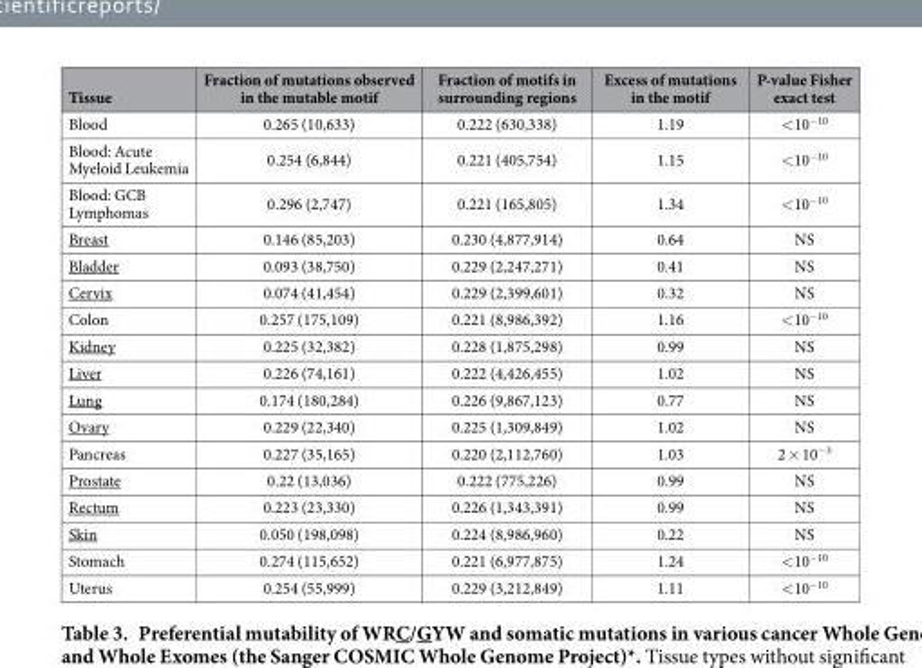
<table><thead><tr><td>Tissue</td><td>Fraction of mutations observed in the mutable motif</td><td>Fraction of motifs in surrounding regions</td><td>Excess of mutations in the motif</td><td>P-value Fisher exact test</td></tr></thead><tbody><tr><td>Blood</td><td>0.265 (10,633)</td><td>0.222 (630,338)</td><td>1.19</td><td>&lt; 10<sup>−10</sup></td></tr><tr><td>Blood: Acute Myeloid Leukemia</td><td>0.254 (6,844)</td><td>0.221 (405,754)</td><td>1.15</td><td>&lt; 10<sup>−10</sup></td></tr><tr><td>Blood: GCB Lymphomas</td><td>0.296 (2,747)</td><td>0.221 (165,805)</td><td>1.34</td><td>&lt; 10<sup>−10</sup></td></tr><tr><td>Breast</td><td>0.146 (85,203)</td><td>0.230 (4,877,914)</td><td>0.64</td><td>NS</td></tr><tr><td>Bladder</td><td>0.093 (38,750)</td><td>0.229 (2,247,271)</td><td>0.41</td><td>NS</td></tr><tr><td>Cervix</td><td>0.074 (41,454)</td><td>0.229 (2,399,601)</td><td>0.32</td><td>NS</td></tr><tr><td>Colon</td><td>0.257 (175,109)</td><td>0.221 (8,986,392)</td><td>1.16</td><td>&lt; 10<sup>−10</sup></td></tr><tr><td>Kidney</td><td>0.225 (32,382)</td><td>0.228 (1,875,298)</td><td>0.99</td><td>NS</td></tr><tr><td>Liver</td><td>0.226 (74,161)</td><td>0.222 (4,426,455)</td><td>1.02</td><td>NS</td></tr><tr><td>Lung</td><td>0.174 (180,284)</td><td>0.226 (9,867,123)</td><td>0.77</td><td>NS</td></tr><tr><td>Ovary</td><td>0.229 (22,340)</td><td>0.225 (1,309,849)</td><td>1.02</td><td>NS</td></tr><tr><td>Pancreas</td><td>0.227 (35,165)</td><td>0.220 (2,112,760)</td><td>1.03</td><td>2 × 10<sup>−3</sup></td></tr><tr><td>Prostate</td><td>0.22 (13,036)</td><td>0.222 (775,226)</td><td>0.99</td><td>NS</td></tr><tr><td>Rectum</td><td>0.223 (23,330)</td><td>0.226 (1,343,391)</td><td>0.99</td><td>NS</td></tr><tr><td>Skin</td><td>0.050 (198,098)</td><td>0.224 (8,986,960)</td><td>0.22</td><td>NS</td></tr><tr><td>Stomach</td><td>0.274 (115,652)</td><td>0.221 (6,977,875)</td><td>1.24</td><td>&lt; 10<sup>−10</sup></td></tr><tr><td>Uterus</td><td>0.254 (55,999)</td><td>0.229 (3,212,849)</td><td>1.11</td><td>&lt; 10<sup>−10</sup></td></tr></tbody></table>